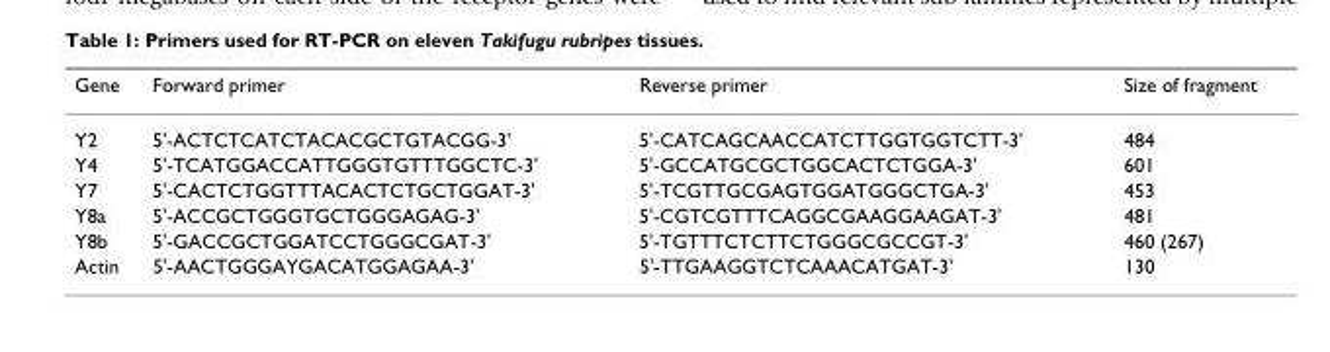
<table><thead><tr><td>Gene</td><td>Forward primer</td><td>Reverse primer</td><td>Size of fragment</td></tr></thead><tbody><tr><td>Y2</td><td>5&#x27;-ACTCTCATCTACACGCTGTACGG-3&#x27;</td><td>5&#x27;-CATCAGCAACCATCTTGGTGGTCTT-3&#x27;</td><td>484</td></tr><tr><td>Y4</td><td>5&#x27;-TCATGGACCATTGGGTGTTTGGCTC-3&#x27;</td><td>5&#x27;-GCCATGCGCTGGCACTCTGGA-3&#x27;</td><td>601</td></tr><tr><td>Y7</td><td>5&#x27;-CACTCTGGTTTACACTCTGCTGGAT-3&#x27;</td><td>5&#x27;-TCGTTGCGAGTGGATGGGCTGA-3&#x27;</td><td>453</td></tr><tr><td>Y8a</td><td>5&#x27;-ACCGCTGGGTGCTGGGAGAG-3&#x27;</td><td>5&#x27;-CGTCGTTTCAGGCGAAGGAAGAT-3&#x27;</td><td>481</td></tr><tr><td>Y8b</td><td>5&#x27;-GACCGCTGGATCCTGGGCGAT-3&#x27;</td><td>5&#x27;-TGTTTCTCTTCTGGGCGCCGT-3&#x27;</td><td>460 (267)</td></tr><tr><td>Actin</td><td>5&#x27;-AACTGGGAYGACATGGAGAA-3&#x27;</td><td>5&#x27;-TTGAAGGTCTCAAACATGAT-3&#x27;</td><td>130</td></tr></tbody></table>